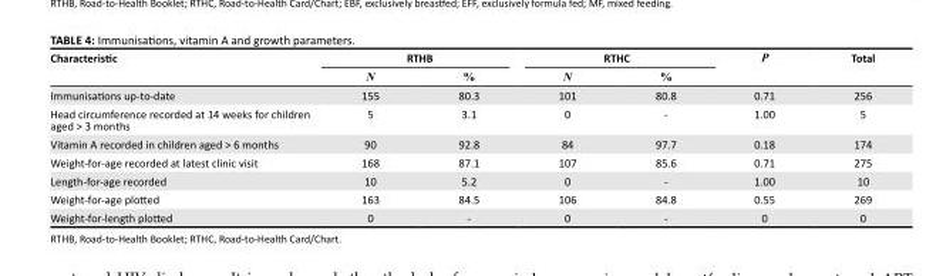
<table><thead><tr><td rowspan="2">Characteristic</td><td colspan="2">RTHB</td><td colspan="2">RTHC</td><td rowspan="2">P</td><td rowspan="2">Total</td></tr><tr><td>N</td><td>%</td><td>N</td><td>%</td></tr></thead><tbody><tr><td>Immunisations up-to-date</td><td>155</td><td>80.3</td><td>101</td><td>80.8</td><td>0.71</td><td>256</td></tr><tr><td>Head circumference recorded at 14 weeks for children aged &gt; 3 months</td><td>5</td><td>3.1</td><td>0</td><td>-</td><td>1.00</td><td>5</td></tr><tr><td>Vitamin A recorded in children aged &gt; 6 months</td><td>90</td><td>92.8</td><td>84</td><td>97.7</td><td>0.18</td><td>174</td></tr><tr><td>Weight-for-age recorded at latest clinic visit</td><td>168</td><td>87.1</td><td>107</td><td>85.6</td><td>0.71</td><td>275</td></tr><tr><td>Length-for-age recorded</td><td>10</td><td>5.2</td><td>0</td><td>-</td><td>1.00</td><td>10</td></tr><tr><td>Weight-for-age plotted</td><td>163</td><td>84.5</td><td>106</td><td>84.8</td><td>0.55</td><td>269</td></tr><tr><td>Weight-for-length plotted</td><td>0</td><td>-</td><td>0</td><td>-</td><td>0</td><td>0</td></tr></tbody></table>